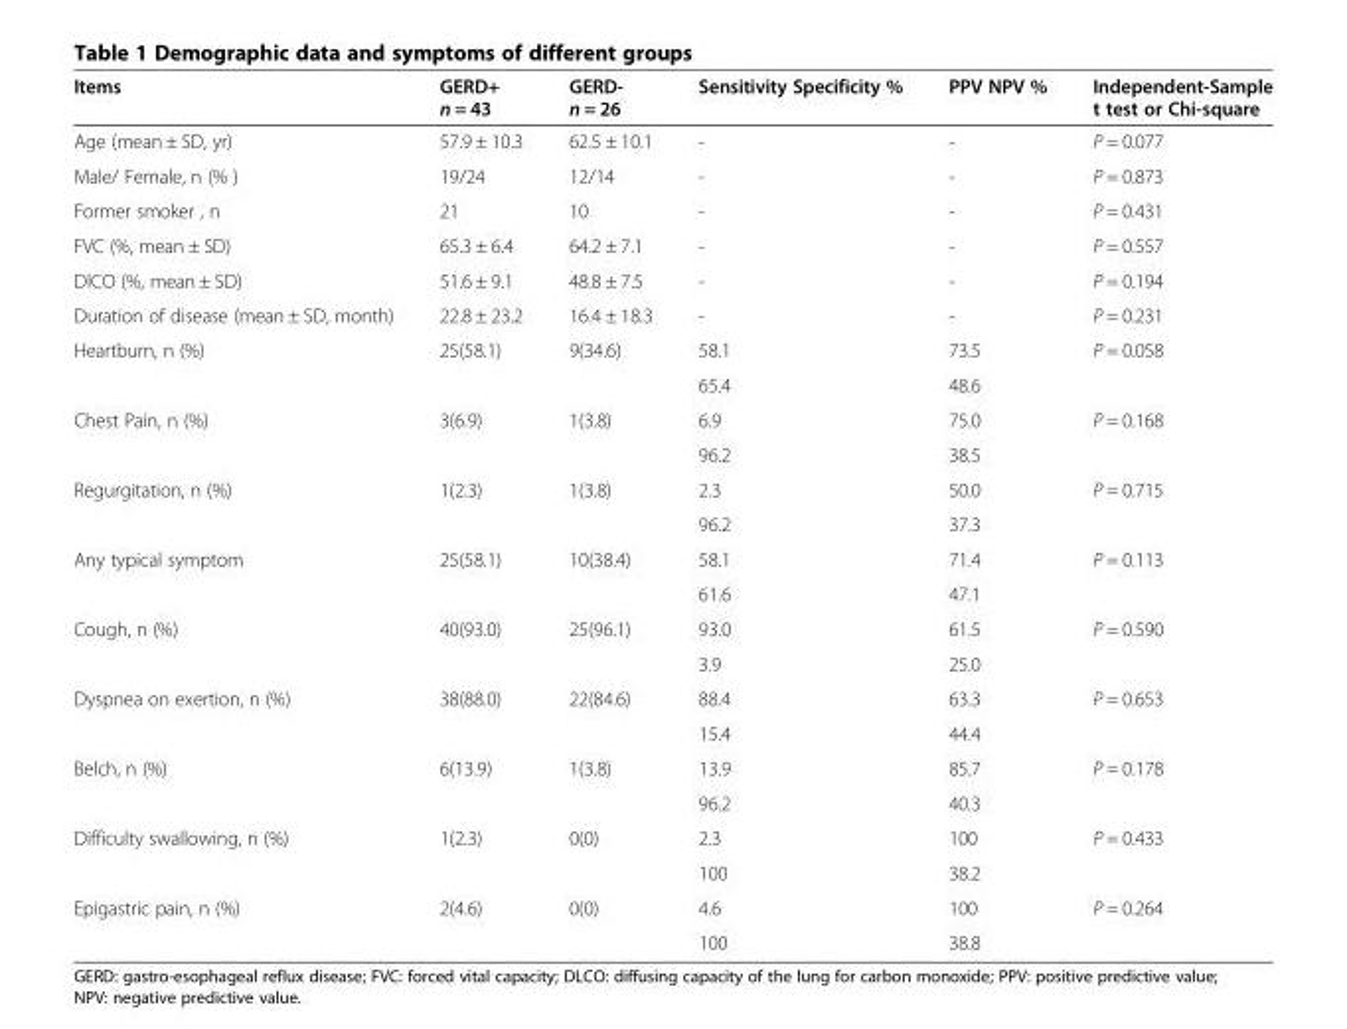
<table><thead><tr><td>Items</td><td>GERD+ n = 43</td><td>GERD- n = 26</td><td>Sensitivity Specificity %</td><td>PPV NPV %</td><td>Independent-Sample t test or Chi-square</td></tr></thead><tbody><tr><td>Age (mean ± SD, yr)</td><td>57.9 ± 10.3</td><td>62.5 ± 10.1</td><td>-</td><td>-</td><td>P = 0.077</td></tr><tr><td>Male/ Female, n (% )</td><td>19/24</td><td>12/14</td><td>-</td><td>-</td><td>P = 0.873</td></tr><tr><td>Former smoker , n</td><td>21</td><td>10</td><td>-</td><td>-</td><td>P = 0.431</td></tr><tr><td>FVC (%, mean ± SD)</td><td>65.3 ± 6.4</td><td>64.2 ± 7.1</td><td>-</td><td>-</td><td>P = 0.557</td></tr><tr><td>DlCO (%, mean ± SD)</td><td>51.6 ± 9.1</td><td>48.8 ± 7.5</td><td>-</td><td>-</td><td>P = 0.194</td></tr><tr><td>Duration of disease (mean ± SD, month)</td><td>22.8 ± 23.2</td><td>16.4 ± 18.3</td><td>-</td><td>-</td><td>P = 0.231</td></tr><tr><td rowspan="2">Heartburn, n (%)</td><td rowspan="2">25(58.1)</td><td rowspan="2">9(34.6)</td><td>58.1</td><td>73.5</td><td rowspan="2">P = 0.058</td></tr><tr><td>65.4</td><td>48.6</td></tr><tr><td rowspan="2">Chest Pain, n (%)</td><td rowspan="2">3(6.9)</td><td rowspan="2">1(3.8)</td><td>6.9</td><td>75.0</td><td rowspan="2">P = 0.168</td></tr><tr><td>96.2</td><td>38.5</td></tr><tr><td rowspan="2">Regurgitation, n (%)</td><td rowspan="2">1(2.3)</td><td rowspan="2">1(3.8)</td><td>2.3</td><td>50.0</td><td rowspan="2">P = 0.715</td></tr><tr><td>96.2</td><td>37.3</td></tr><tr><td rowspan="2">Any typical symptom</td><td rowspan="2">25(58.1)</td><td rowspan="2">10(38.4)</td><td>58.1</td><td>71.4</td><td rowspan="2">P = 0.113</td></tr><tr><td>61.6</td><td>47.1</td></tr><tr><td rowspan="2">Cough, n (%)</td><td rowspan="2">40(93.0)</td><td rowspan="2">25(96.1)</td><td>93.0</td><td>61.5</td><td rowspan="2">P = 0.590</td></tr><tr><td>3.9</td><td>25.0</td></tr><tr><td rowspan="2">Dyspnea on exertion, n (%)</td><td rowspan="2">38(88.0)</td><td rowspan="2">22(84.6)</td><td>88.4</td><td>63.3</td><td rowspan="2">P = 0.653</td></tr><tr><td>15.4</td><td>44.4</td></tr><tr><td rowspan="2">Belch, n (%)</td><td rowspan="2">6(13.9)</td><td rowspan="2">1(3.8)</td><td>13.9</td><td>85.7</td><td rowspan="2">P = 0.178</td></tr><tr><td>96.2</td><td>40.3</td></tr><tr><td rowspan="2">Difficulty swallowing, n (%)</td><td rowspan="2">1(2.3)</td><td rowspan="2">0(0)</td><td>2.3</td><td>100</td><td rowspan="2">P = 0.433</td></tr><tr><td>100</td><td>38.2</td></tr><tr><td rowspan="2">Epigastric pain, n (%)</td><td rowspan="2">2(4.6)</td><td rowspan="2">0(0)</td><td>4.6</td><td>100</td><td rowspan="2">P = 0.264</td></tr><tr><td>100</td><td>38.8</td></tr></tbody></table>